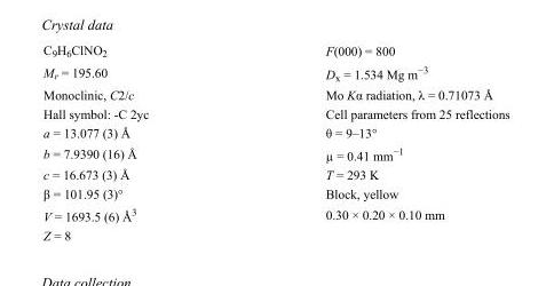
<table><tbody><tr><td>C<sub>9</sub>H<sub>6</sub>ClNO<sub>2</sub></td><td>F(000) = 800</td></tr><tr><td>M<sub>r</sub> = 195.60</td><td>D<sub>x</sub> = 1.534 Mg m<sup>−3</sup></td></tr><tr><td>Monoclinic, C2/c</td><td>Mo Kα radiation, λ = 0.71073 Å</td></tr><tr><td>Hall symbol: -C 2yc</td><td>Cell parameters from 25 reflections</td></tr><tr><td>a = 13.077 (3) Å</td><td>θ = 9–13°</td></tr><tr><td>b = 7.9390 (16) Å</td><td>µ = 0.41 mm<sup>−1</sup></td></tr><tr><td>c = 16.673 (3) Å</td><td>T = 293 K</td></tr><tr><td>β = 101.95 (3)°</td><td>Block, yellow</td></tr><tr><td>V = 1693.5 (6) Å<sup>3</sup></td><td>0.30 × 0.20 × 0.10 mm</td></tr><tr><td>Z = 8</td><td></td></tr></tbody></table>